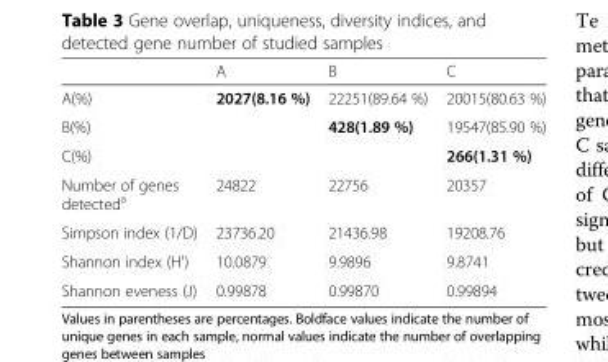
<table><thead><tr><td></td><td>A</td><td>B</td><td>C</td></tr></thead><tbody><tr><td>A(%)</td><td>2027(8.16 %)</td><td>22251(89.64 %)</td><td>20015(80.63 %)</td></tr><tr><td>B(%)</td><td></td><td>428(1.89 %)</td><td>19547(85.90 %)</td></tr><tr><td>C(%)</td><td></td><td></td><td>266(1.31 %)</td></tr><tr><td>Number of genes detected<sup>a</sup></td><td>24822</td><td>22756</td><td>20357</td></tr><tr><td>Simpson index (1/D)</td><td>23736.20</td><td>21436.98</td><td>19208.76</td></tr><tr><td>Shannon index (H&#x27;)</td><td>10.0879</td><td>9.9896</td><td>9.8741</td></tr><tr><td>Shannon eveness (J)</td><td>0.99878</td><td>0.99870</td><td>0.99894</td></tr></tbody></table>